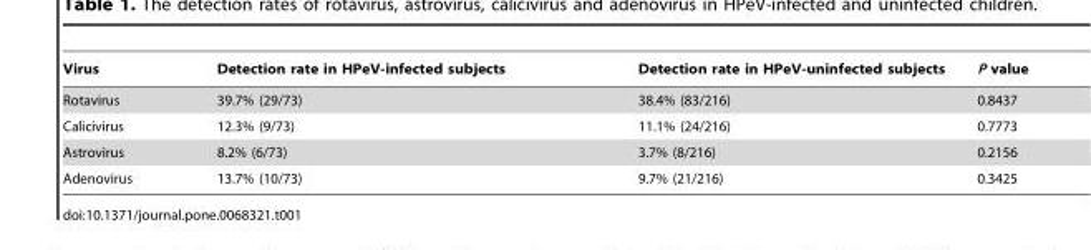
<table><thead><tr><td>Virus</td><td>Detection rate in HPeV-infected subjects</td><td>Detection rate in HPeV-uninfected subjects</td><td>P value</td></tr></thead><tbody><tr><td>Rotavirus</td><td>39.7% (29/73)</td><td>38.4% (83/216)</td><td>0.8437</td></tr><tr><td>Calicivirus</td><td>12.3% (9/73)</td><td>11.1% (24/216)</td><td>0.7773</td></tr><tr><td>Astrovirus</td><td>8.2% (6/73)</td><td>3.7% (8/216)</td><td>0.2156</td></tr><tr><td>Adenovirus</td><td>13.7% (10/73)</td><td>9.7% (21/216)</td><td>0.3425</td></tr></tbody></table>